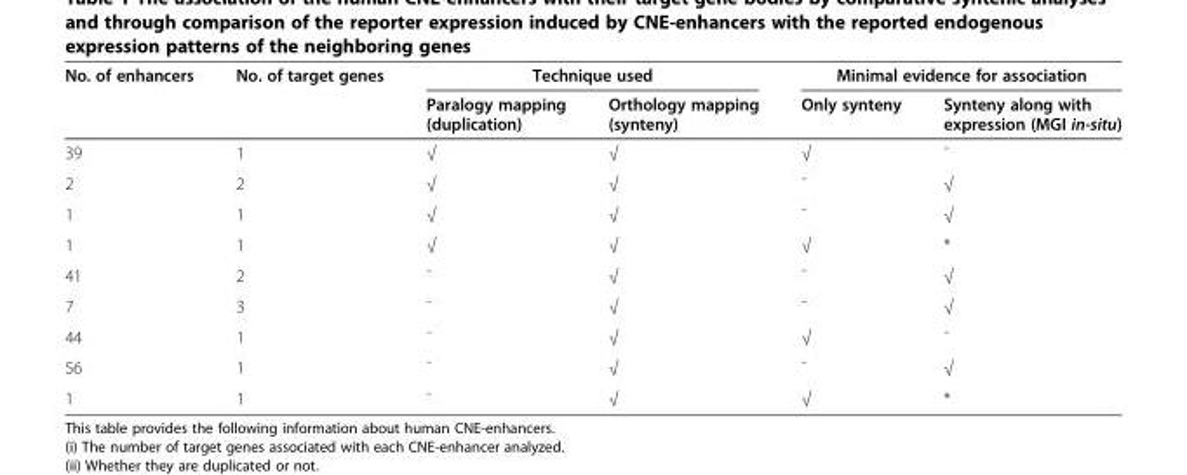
<table><thead><tr><td rowspan="2">No. of enhancers</td><td rowspan="2">No. of target genes</td><td colspan="2">Technique used</td><td colspan="2">Minimal evidence for association</td></tr><tr><td>Paralogy mapping (duplication)</td><td>Orthology mapping (synteny)</td><td>Only synteny</td><td>Synteny along with expression (MGI in-situ)</td></tr></thead><tbody><tr><td>39</td><td>1</td><td>√</td><td>√</td><td>√</td><td>¯</td></tr><tr><td>2</td><td>2</td><td>√</td><td>√</td><td>¯</td><td>√</td></tr><tr><td>1</td><td>1</td><td>√</td><td>√</td><td>¯</td><td>√</td></tr><tr><td>1</td><td>1</td><td>√</td><td>√</td><td>√</td><td>*</td></tr><tr><td>41</td><td>2</td><td>¯</td><td>√</td><td>¯</td><td>√</td></tr><tr><td>7</td><td>3</td><td>¯</td><td>√</td><td>¯</td><td>√</td></tr><tr><td>44</td><td>1</td><td>¯</td><td>√</td><td>√</td><td>¯</td></tr><tr><td>56</td><td>1</td><td>¯</td><td>√</td><td>¯</td><td>√</td></tr><tr><td>1</td><td>1</td><td>¯</td><td>√</td><td>√</td><td>*</td></tr></tbody></table>